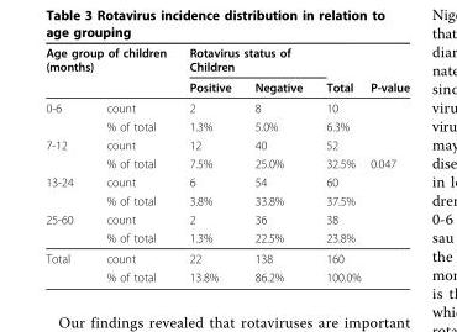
<table><thead><tr><td colspan="2">Age group of children (months)</td><td colspan="2">Rotavirus status of Children</td><td rowspan="2">Total</td><td rowspan="2">P-value</td></tr><tr><td></td><td></td><td>Positive</td><td>Negative</td></tr></thead><tbody><tr><td rowspan="2">0-6</td><td>count</td><td>2</td><td>8</td><td>10</td><td></td></tr><tr><td>% of total</td><td>1.3%</td><td>5.0%</td><td>6.3%</td><td></td></tr><tr><td rowspan="2">7-12</td><td>count</td><td>12</td><td>40</td><td>52</td><td></td></tr><tr><td>% of total</td><td>7.5%</td><td>25.0%</td><td>32.5%</td><td>0.047</td></tr><tr><td rowspan="2">13-24</td><td>count</td><td>6</td><td>54</td><td>60</td><td></td></tr><tr><td>% of total</td><td>3.8%</td><td>33.8%</td><td>37.5%</td><td></td></tr><tr><td rowspan="2">25-60</td><td>count</td><td>2</td><td>36</td><td>38</td><td></td></tr><tr><td>% of total</td><td>1.3%</td><td>22.5%</td><td>23.8%</td><td></td></tr><tr><td rowspan="2">Total</td><td>count</td><td>22</td><td>138</td><td>160</td><td></td></tr><tr><td>% of total</td><td>13.8%</td><td>86.2%</td><td>100.0%</td><td></td></tr></tbody></table>